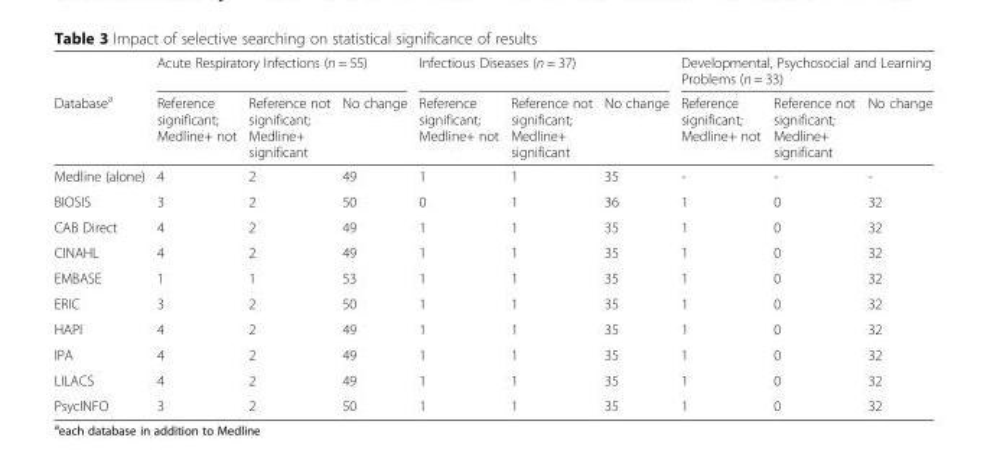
<table><thead><tr><td rowspan="2">Database<sup>a</sup></td><td colspan="3">Acute Respiratory Infections (n = 55)</td><td colspan="3">Infectious Diseases (n = 37)</td><td colspan="3">Developmental, Psychosocial and Learning Problems (n = 33)</td></tr><tr><td>Reference significant; Medline+ not</td><td>Reference not significant; Medline+ significant</td><td>No change</td><td>Reference significant; Medline+ not</td><td>Reference not significant; Medline+ significant</td><td>No change</td><td>Reference significant; Medline+ not</td><td>Reference not significant; Medline+ significant</td><td>No change</td></tr></thead><tbody><tr><td>Medline (alone)</td><td>4</td><td>2</td><td>49</td><td>1</td><td>1</td><td>35</td><td>-</td><td>-</td><td>-</td></tr><tr><td>BIOSIS</td><td>3</td><td>2</td><td>50</td><td>0</td><td>1</td><td>36</td><td>1</td><td>0</td><td>32</td></tr><tr><td>CAB Direct</td><td>4</td><td>2</td><td>49</td><td>1</td><td>1</td><td>35</td><td>1</td><td>0</td><td>32</td></tr><tr><td>CINAHL</td><td>4</td><td>2</td><td>49</td><td>1</td><td>1</td><td>35</td><td>1</td><td>0</td><td>32</td></tr><tr><td>EMBASE</td><td>1</td><td>1</td><td>53</td><td>1</td><td>1</td><td>35</td><td>1</td><td>0</td><td>32</td></tr><tr><td>ERIC</td><td>3</td><td>2</td><td>50</td><td>1</td><td>1</td><td>35</td><td>1</td><td>0</td><td>32</td></tr><tr><td>HAPI</td><td>4</td><td>2</td><td>49</td><td>1</td><td>1</td><td>35</td><td>1</td><td>0</td><td>32</td></tr><tr><td>IPA</td><td>4</td><td>2</td><td>49</td><td>1</td><td>1</td><td>35</td><td>1</td><td>0</td><td>32</td></tr><tr><td>LILACS</td><td>4</td><td>2</td><td>49</td><td>1</td><td>1</td><td>35</td><td>1</td><td>0</td><td>32</td></tr><tr><td>PsycINFO</td><td>3</td><td>2</td><td>50</td><td>1</td><td>1</td><td>35</td><td>1</td><td>0</td><td>32</td></tr></tbody></table>